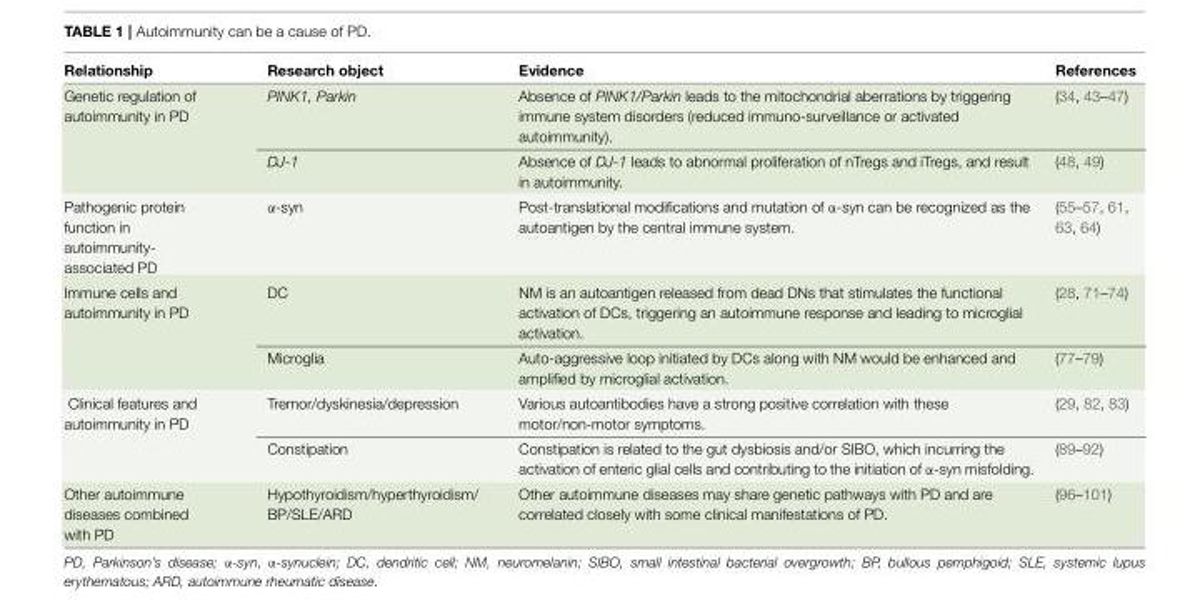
<table><thead><tr><td>Relationship</td><td>Research object</td><td>Evidence</td><td>References</td></tr></thead><tbody><tr><td rowspan="2">Genetic regulation of autoimmunity in PD</td><td>PINK1, Parkin</td><td>Absence of PINK1/Parkin leads to the mitochondrial aberrations by triggering immune system disorders (reduced immuno-surveillance or activated autoimmunity).</td><td>(34, 43–47)</td></tr><tr><td>DJ-1</td><td>Absence of DJ-1 leads to abnormal proliferation of nTregs and iTregs, and result in autoimmunity.</td><td>(48, 49)</td></tr><tr><td>Pathogenic protein function in autoimmunity- associated PD</td><td>α-syn</td><td>Post-translational modifications and mutation of α-syn can be recognized as the autoantigen by the central immune system.</td><td>(55–57, 61, 63, 64)</td></tr><tr><td rowspan="2">Immune cells and autoimmunity in PD</td><td>DC</td><td>NM is an autoantigen released from dead DNs that stimulates the functional activation of DCs, triggering an autoimmune response and leading to microglial activation.</td><td>(28, 71–74)</td></tr><tr><td>Microglia</td><td>Auto-aggressive loop initiated by DCs along with NM would be enhanced and amplified by microglial activation.</td><td>(77–79)</td></tr><tr><td rowspan="2">Clinical features and autoimmunity in PD</td><td>Tremor/dyskinesia/depression</td><td>Various autoantibodies have a strong positive correlation with these motor/non-motor symptoms.</td><td>(29, 82, 83)</td></tr><tr><td>Constipation</td><td>Constipation is related to the gut dysbiosis and/or SIBO, which incurring the activation of enteric glial cells and contributing to the initiation of α-syn misfolding.</td><td>(89–92)</td></tr><tr><td>Other autoimmune diseases combined with PD</td><td>Hypothyroidism/hyperthyroidism/ BP/SLE/ARD</td><td>Other autoimmune diseases may share genetic pathways with PD and are correlated closely with some clinical manifestations of PD.</td><td>(96–101)</td></tr></tbody></table>